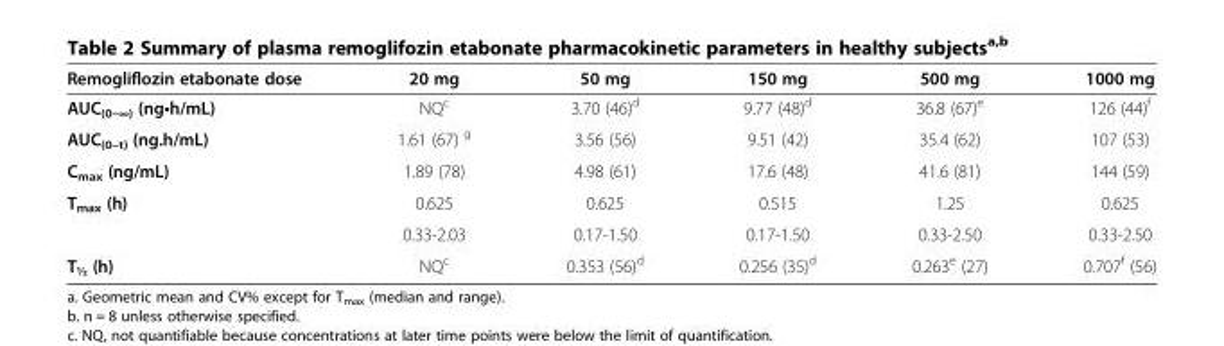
<table><thead><tr><td>Remogliflozin etabonate dose</td><td>20 mg</td><td>50 mg</td><td>150 mg</td><td>500 mg</td><td>1000 mg</td></tr></thead><tbody><tr><td>AUC<sub>(0–∞)</sub> (ng•h/mL)</td><td>NQ<sup>c</sup></td><td>3.70 (46)<sup>d</sup></td><td>9.77 (48)<sup>d</sup></td><td>36.8 (67)<sup>e</sup></td><td>126 (44)<sup>f</sup></td></tr><tr><td>AUC<sub>(0–t)</sub> (ng.h/mL)</td><td>1.61 (67) <sup>g</sup></td><td>3.56 (56)</td><td>9.51 (42)</td><td>35.4 (62)</td><td>107 (53)</td></tr><tr><td>C<sub>max</sub> (ng/mL)</td><td>1.89 (78)</td><td>4.98 (61)</td><td>17.6 (48)</td><td>41.6 (81)</td><td>144 (59)</td></tr><tr><td rowspan="2">T<sub>max</sub> (h)</td><td>0.625</td><td>0.625</td><td>0.515</td><td>1.25</td><td>0.625</td></tr><tr><td>0.33-2.03</td><td>0.17-1.50</td><td>0.17-1.50</td><td>0.33-2.50</td><td>0.33-2.50</td></tr><tr><td>T<sub>½</sub> (h)</td><td>NQ<sup>c</sup></td><td>0.353 (56)<sup>d</sup></td><td>0.256 (35)<sup>d</sup></td><td>0.263<sup>e</sup> (27)</td><td>0.707<sup>f</sup> (56)</td></tr></tbody></table>